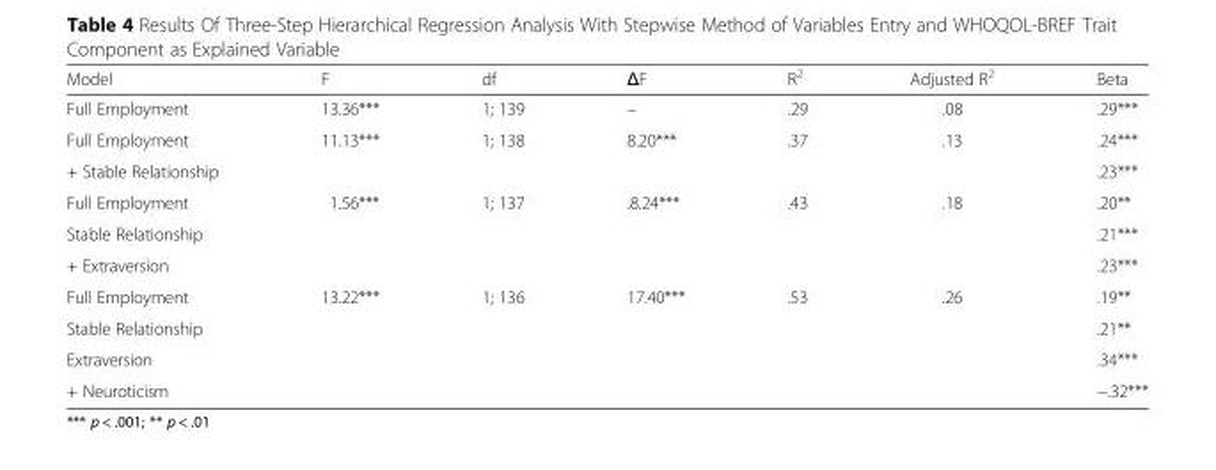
<table><thead><tr><td>Model</td><td>F</td><td>df</td><td>ΔF</td><td>R<sup>2</sup></td><td>Adjusted R<sup>2</sup></td><td>Beta</td></tr></thead><tbody><tr><td>Full Employment</td><td>13.36***</td><td>1; 139</td><td>–</td><td>.29</td><td>.08</td><td>.29***</td></tr><tr><td>Full Employment</td><td rowspan="2">11.13***</td><td rowspan="2">1; 138</td><td rowspan="2">8.20***</td><td rowspan="2">.37</td><td rowspan="2">.13</td><td>.24***</td></tr><tr><td>+ Stable Relationship</td><td>.23***</td></tr><tr><td>Full Employment</td><td rowspan="3">1.56***</td><td rowspan="3">1; 137</td><td rowspan="3">.8.24***</td><td rowspan="3">.43</td><td rowspan="3">.18</td><td>.20**</td></tr><tr><td>Stable Relationship</td><td>.21***</td></tr><tr><td>+ Extraversion</td><td>.23***</td></tr><tr><td>Full Employment</td><td rowspan="4">13.22***</td><td rowspan="4">1; 136</td><td rowspan="4">17.40***</td><td rowspan="4">.53</td><td rowspan="4">.26</td><td>.19**</td></tr><tr><td>Stable Relationship</td><td>.21**</td></tr><tr><td>Extraversion</td><td>.34***</td></tr><tr><td>+ Neuroticism</td><td>−.32***</td></tr></tbody></table>